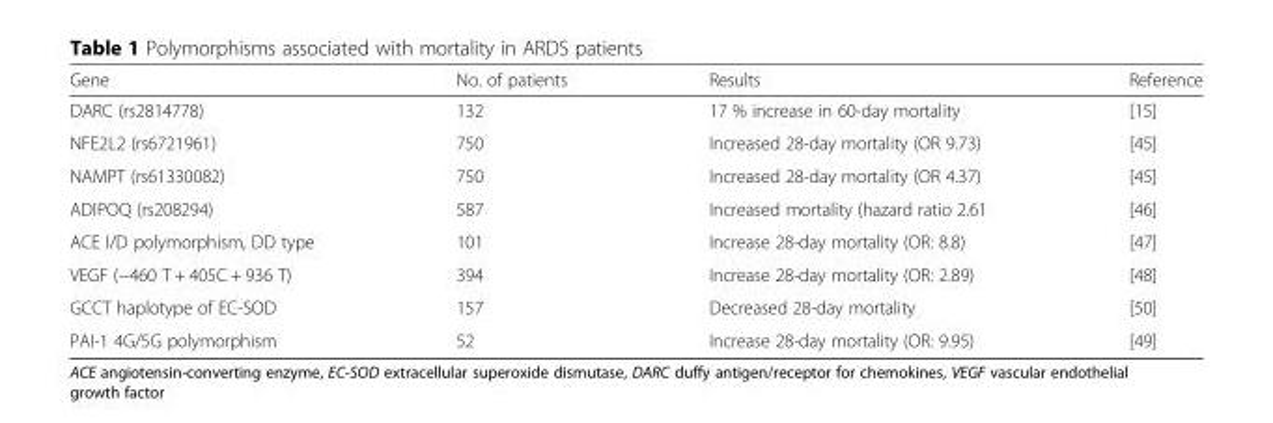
<table><thead><tr><td>Gene</td><td>No. of patients</td><td>Results</td><td>Reference</td></tr></thead><tbody><tr><td>DARC (rs2814778)</td><td>132</td><td>17 % increase in 60-day mortality</td><td>[15]</td></tr><tr><td>NFE2L2 (rs6721961)</td><td>750</td><td>Increased 28-day mortality (OR 9.73)</td><td>[45]</td></tr><tr><td>NAMPT (rs61330082)</td><td>750</td><td>Increased 28-day mortality (OR 4.37)</td><td>[45]</td></tr><tr><td>ADIPOQ (rs208294)</td><td>587</td><td>Increased mortality (hazard ratio 2.61</td><td>[46]</td></tr><tr><td>ACE I/D polymorphism, DD type</td><td>101</td><td>Increase 28-day mortality (OR: 8.8)</td><td>[47]</td></tr><tr><td>VEGF (−460 T + 405C + 936 T)</td><td>394</td><td>Increase 28-day mortality (OR: 2.89)</td><td>[48]</td></tr><tr><td>GCCT haplotype of EC-SOD</td><td>157</td><td>Decreased 28-day mortality</td><td>[50]</td></tr><tr><td>PAI-1 4G/5G polymorphism</td><td>52</td><td>Increase 28-day mortality (OR: 9.95)</td><td>[49]</td></tr></tbody></table>